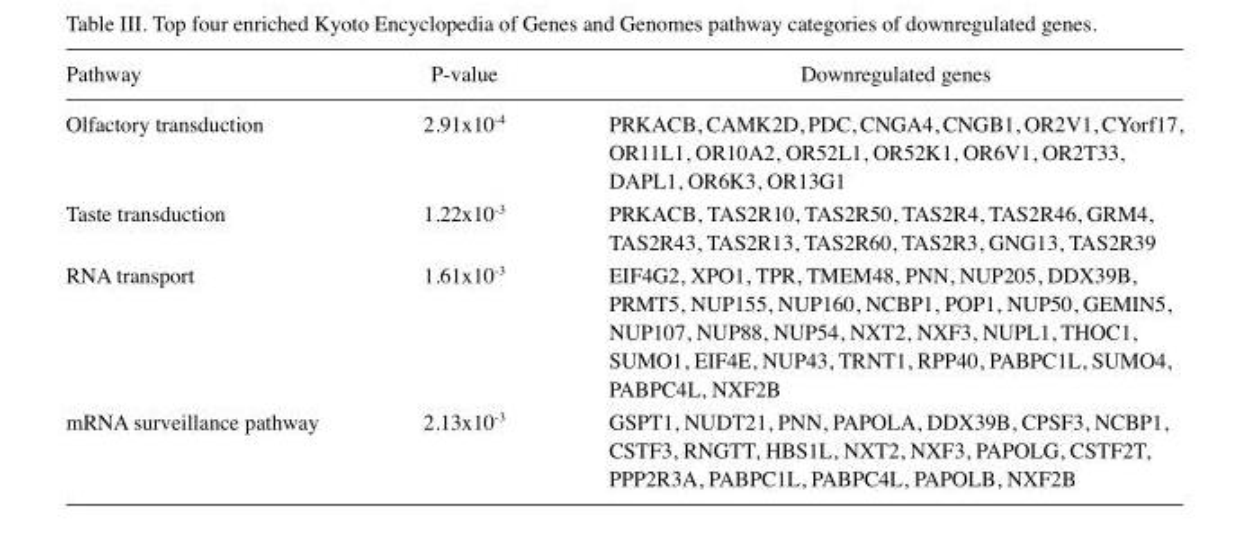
<table><thead><tr><td>Pathway</td><td>P-value</td><td>Downregulated genes</td></tr></thead><tbody><tr><td>Olfactory transduction</td><td>2.91x10-4</td><td>PRKACB, CAMK2D, PDC, CNGA4, CNGB1, OR2V1, CYorf17, OR11L1, OR10A2, OR52L1, OR52K1, OR6V1, OR2T33, DAPL1, OR6K3, OR13G1</td></tr><tr><td>Taste transduction</td><td>1.22x10-3</td><td>PRKACB, TAS2R10, TAS2R50, TAS2R4, TAS2R46, GRM4, TAS2R43, TAS2R13, TAS2R60, TAS2R3, GNG13, TAS2R39</td></tr><tr><td>RNA transport</td><td>1.61x10-3</td><td>EIF4G2, XPO1, TPR, TMEM48, PNN, NUP205, DDX39B, PRMT5, NUP155, NUP160, NCBP1, POP1, NUP50, GEMIN5, NUP107, NUP88, NUP54, NXT2, NXF3, NUPL1, THOC1, SUMO1, EIF4E, NUP43, TRNT1, RPP40, PABPC1L, SUMO4, PABPC4L, NXF2B</td></tr><tr><td>mRNA surveillance pathway</td><td>2.13x10-3</td><td>GSPT1, NUDT21, PNN, PAPOLA, DDX39B, CPSF3, NCBP1, CSTF3, RNGTT, HBS1L, NXT2, NXF3, PAPOLG, CSTF2T, PPP2R3A, PABPC1L, PABPC4L, PAPOLB, NXF2B</td></tr></tbody></table>